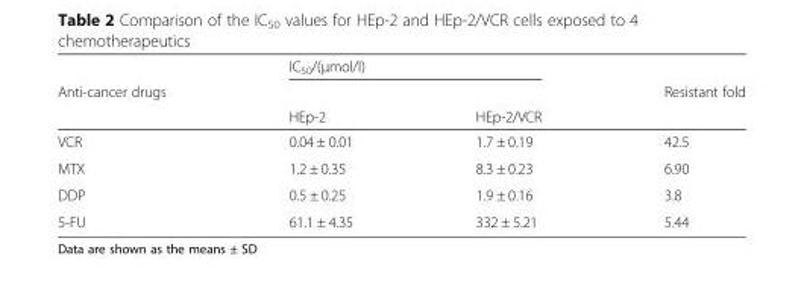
<table><thead><tr><td rowspan="3">Anti-cancer drugs</td><td colspan="2">IC<sub>50</sub>/(μmol/l)</td><td rowspan="3">Resistant fold</td></tr><tr><td rowspan="2">HEp-2</td><td rowspan="2">HEp-2/VCR</td></tr><tr></tr></thead><tbody><tr><td>VCR</td><td>0.04 ± 0.01</td><td>1.7 ± 0.19</td><td>42.5</td></tr><tr><td>MTX</td><td>1.2 ± 0.35</td><td>8.3 ± 0.23</td><td>6.90</td></tr><tr><td>DDP</td><td>0.5 ± 0.25</td><td>1.9 ± 0.16</td><td>3.8</td></tr><tr><td>5-FU</td><td>61.1 ± 4.35</td><td>332 ± 5.21</td><td>5.44</td></tr></tbody></table>